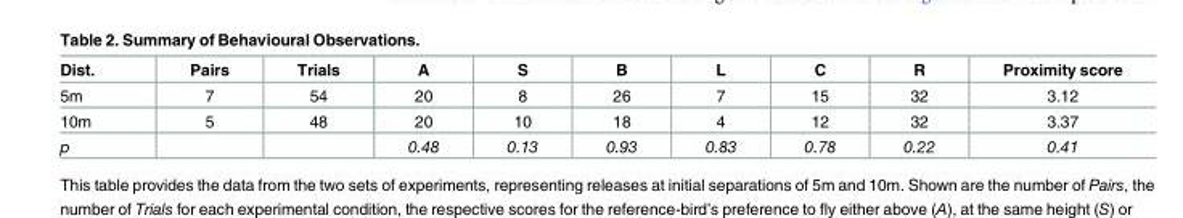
<table><thead><tr><td>Dist.</td><td>Pairs</td><td>Trials</td><td>A</td><td>S</td><td>B</td><td>L</td><td>C</td><td>R</td><td>Proximity score</td></tr></thead><tbody><tr><td>5m</td><td>7</td><td>54</td><td>20</td><td>8</td><td>26</td><td>7</td><td>15</td><td>32</td><td>3.12</td></tr><tr><td>10m</td><td>5</td><td>48</td><td>20</td><td>10</td><td>18</td><td>4</td><td>12</td><td>32</td><td>3.37</td></tr><tr><td>p</td><td></td><td></td><td>0.48</td><td>0.13</td><td>0.93</td><td>0.83</td><td>0.78</td><td>0.22</td><td>0.41</td></tr></tbody></table>